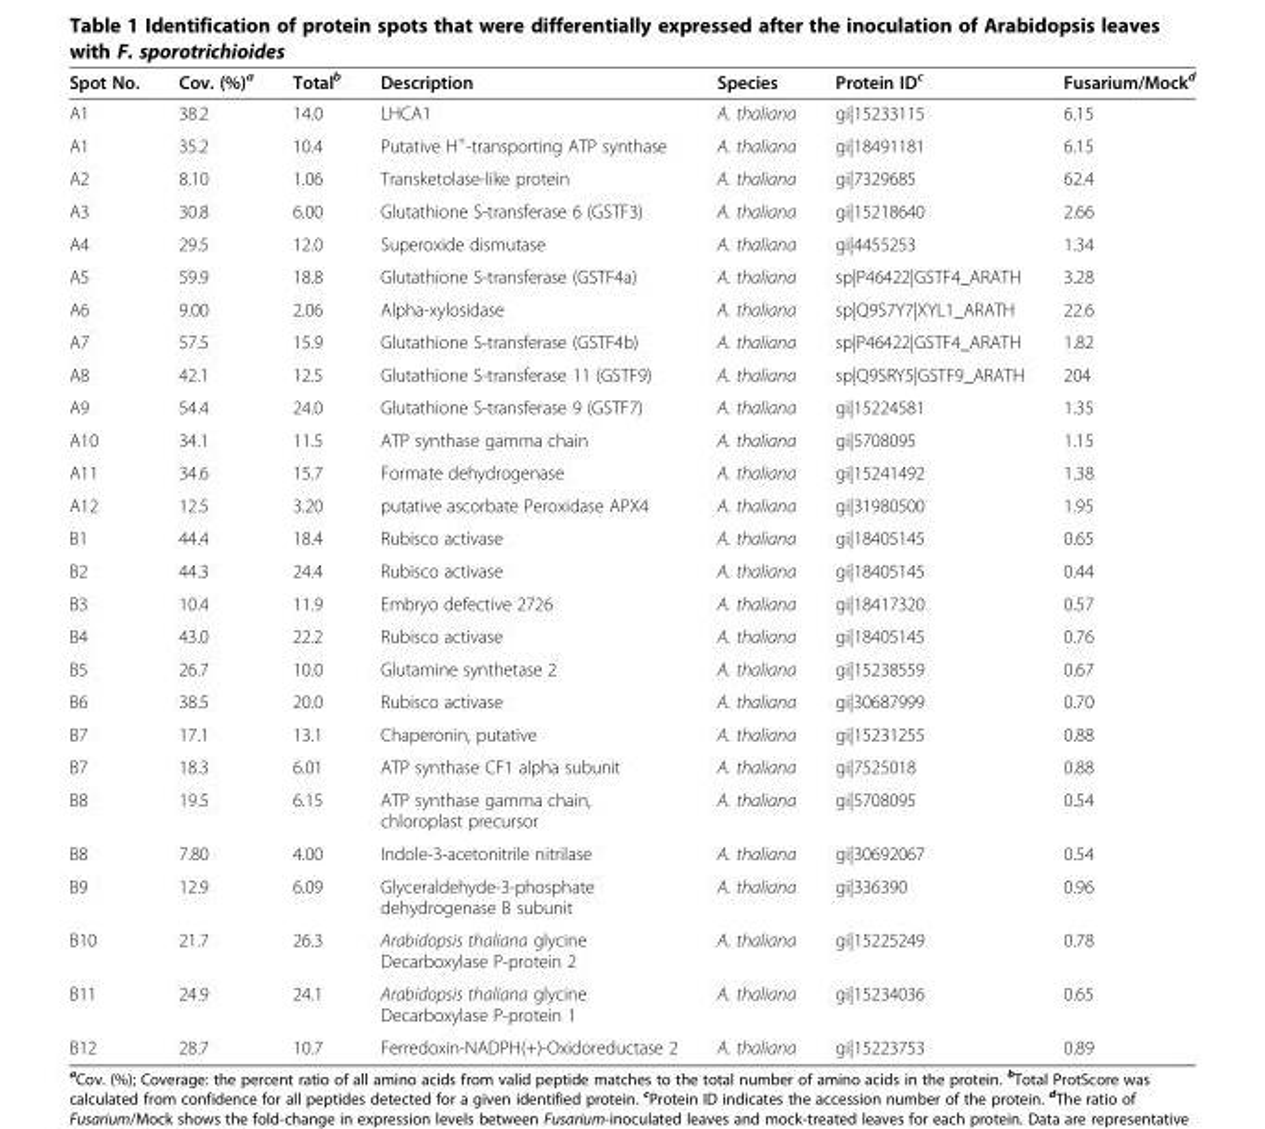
<table><thead><tr><td>Spot No.</td><td>Cov. (%)<sup>a</sup></td><td>Total<sup>b</sup></td><td>Description</td><td>Species</td><td>Protein ID<sup>c</sup></td><td>Fusarium/Mock<sup>d</sup></td></tr></thead><tbody><tr><td>A1</td><td>38.2</td><td>14.0</td><td>LHCA1</td><td>A. thaliana</td><td>gi|15233115</td><td>6.15</td></tr><tr><td>A1</td><td>35.2</td><td>10.4</td><td>Putative H<sup>+</sup>-transporting ATP synthase</td><td>A. thaliana</td><td>gi|18491181</td><td>6.15</td></tr><tr><td>A2</td><td>8.10</td><td>1.06</td><td>Transketolase-like protein</td><td>A. thaliana</td><td>gi|7329685</td><td>62.4</td></tr><tr><td>A3</td><td>30.8</td><td>6.00</td><td>Glutathione S-transferase 6 (GSTF3)</td><td>A. thaliana</td><td>gi|15218640</td><td>2.66</td></tr><tr><td>A4</td><td>29.5</td><td>12.0</td><td>Superoxide dismutase</td><td>A. thaliana</td><td>gi|4455253</td><td>1.34</td></tr><tr><td>A5</td><td>59.9</td><td>18.8</td><td>Glutathione S-transferase (GSTF4a)</td><td>A. thaliana</td><td>sp|P46422|GSTF4_ARATH</td><td>3.28</td></tr><tr><td>A6</td><td>9.00</td><td>2.06</td><td>Alpha-xylosidase</td><td>A. thaliana</td><td>sp|Q9S7Y7|XYL1_ARATH</td><td>22.6</td></tr><tr><td>A7</td><td>57.5</td><td>15.9</td><td>Glutathione S-transferase (GSTF4b)</td><td>A. thaliana</td><td>sp|P46422|GSTF4_ARATH</td><td>1.82</td></tr><tr><td>A8</td><td>42.1</td><td>12.5</td><td>Glutathione S-transferase 11 (GSTF9)</td><td>A. thaliana</td><td>sp|Q9SRY5|GSTF9_ARATH</td><td>204</td></tr><tr><td>A9</td><td>54.4</td><td>24.0</td><td>Glutathione S-transferase 9 (GSTF7)</td><td>A. thaliana</td><td>gi|15224581</td><td>1.35</td></tr><tr><td>A10</td><td>34.1</td><td>11.5</td><td>ATP synthase gamma chain</td><td>A. thaliana</td><td>gi|5708095</td><td>1.15</td></tr><tr><td>A11</td><td>34.6</td><td>15.7</td><td>Formate dehydrogenase</td><td>A. thaliana</td><td>gi|15241492</td><td>1.38</td></tr><tr><td>A12</td><td>12.5</td><td>3.20</td><td>putative ascorbate Peroxidase APX4</td><td>A. thaliana</td><td>gi|31980500</td><td>1.95</td></tr><tr><td>B1</td><td>44.4</td><td>18.4</td><td>Rubisco activase</td><td>A. thaliana</td><td>gi|18405145</td><td>0.65</td></tr><tr><td>B2</td><td>44.3</td><td>24.4</td><td>Rubisco activase</td><td>A. thaliana</td><td>gi|18405145</td><td>0.44</td></tr><tr><td>B3</td><td>10.4</td><td>11.9</td><td>Embryo defective 2726</td><td>A. thaliana</td><td>gi|18417320</td><td>0.57</td></tr><tr><td>B4</td><td>43.0</td><td>22.2</td><td>Rubisco activase</td><td>A. thaliana</td><td>gi|18405145</td><td>0.76</td></tr><tr><td>B5</td><td>26.7</td><td>10.0</td><td>Glutamine synthetase 2</td><td>A. thaliana</td><td>gi|15238559</td><td>0.67</td></tr><tr><td>B6</td><td>38.5</td><td>20.0</td><td>Rubisco activase</td><td>A. thaliana</td><td>gi|30687999</td><td>0.70</td></tr><tr><td>B7</td><td>17.1</td><td>13.1</td><td>Chaperonin, putative</td><td>A. thaliana</td><td>gi|15231255</td><td>0.88</td></tr><tr><td>B7</td><td>18.3</td><td>6.01</td><td>ATP synthase CF1 alpha subunit</td><td>A. thaliana</td><td>gi|7525018</td><td>0.88</td></tr><tr><td>B8</td><td>19.5</td><td>6.15</td><td>ATP synthase gamma chain, chloroplast precursor</td><td>A. thaliana</td><td>gi|5708095</td><td>0.54</td></tr><tr><td>B8</td><td>7.80</td><td>4.00</td><td>Indole-3-acetonitrile nitrilase</td><td>A. thaliana</td><td>gi|30692067</td><td>0.54</td></tr><tr><td>B9</td><td>12.9</td><td>6.09</td><td>Glyceraldehyde-3-phosphate dehydrogenase B subunit</td><td>A. thaliana</td><td>gi|336390</td><td>0.96</td></tr><tr><td>B10</td><td>21.7</td><td>26.3</td><td>Arabidopsis thaliana glycine Decarboxylase P-protein 2</td><td>A. thaliana</td><td>gi|15225249</td><td>0.78</td></tr><tr><td>B11</td><td>24.9</td><td>24.1</td><td>Arabidopsis thaliana glycine Decarboxylase P-protein 1</td><td>A. thaliana</td><td>gi|15234036</td><td>0.65</td></tr><tr><td>B12</td><td>28.7</td><td>10.7</td><td>Ferredoxin-NADPH(+)-Oxidoreductase 2</td><td>A. thaliana</td><td>gi|15223753</td><td>0.89</td></tr></tbody></table>